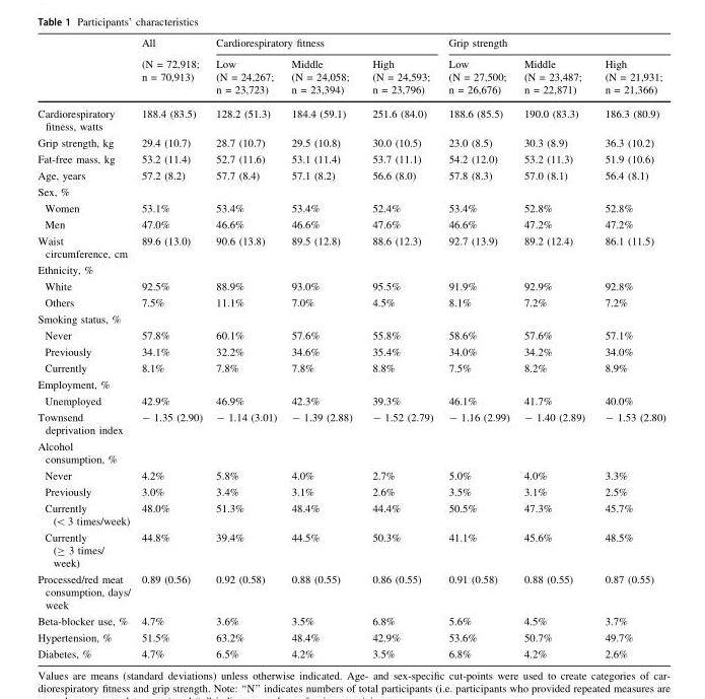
<table><thead><tr><td rowspan="2"></td><td rowspan="2">All (N = 72,918; n = 70,913)</td><td colspan="3">Cardiorespiratory fitness</td><td colspan="3">Grip strength</td></tr><tr><td>Low (N = 24,267; n = 23,723)</td><td>Middle (N = 24,058; n = 23,394)</td><td>High (N = 24,593; n = 23,796)</td><td>Low (N = 27,500; n = 26,676)</td><td>Middle (N = 23,487; n = 22,871)</td><td>High (N = 21,931; n = 21,366)</td></tr></thead><tbody><tr><td>Cardiorespiratory fitness, watts</td><td>188.4 (83.5)</td><td>128.2 (51.3)</td><td>184.4 (59.1)</td><td>251.6 (84.0)</td><td>188.6 (85.5)</td><td>190.0 (83.3)</td><td>186.3 (80.9)</td></tr><tr><td>Grip strength, kg</td><td>29.4 (10.7)</td><td>28.7 (10.7)</td><td>29.5 (10.8)</td><td>30.0 (10.5)</td><td>23.0 (8.5)</td><td>30.3 (8.9)</td><td>36.3 (10.2)</td></tr><tr><td>Fat-free mass, kg</td><td>53.2 (11.4)</td><td>52.7 (11.6)</td><td>53.1 (11.4)</td><td>53.7 (11.1)</td><td>54.2 (12.0)</td><td>53.2 (11.3)</td><td>51.9 (10.6)</td></tr><tr><td>Age, years</td><td>57.2 (8.2)</td><td>57.7 (8.4)</td><td>57.1 (8.2)</td><td>56.6 (8.0)</td><td>57.8 (8.3)</td><td>57.0 (8.1)</td><td>56.4 (8.1)</td></tr><tr><td colspan="8">Sex, %</td></tr><tr><td>Women</td><td>53.1%</td><td>53.4%</td><td>53.4%</td><td>52.4%</td><td>53.4%</td><td>52.8%</td><td>52.8%</td></tr><tr><td>Men</td><td>47.0%</td><td>46.6%</td><td>46.6%</td><td>47.6%</td><td>46.6%</td><td>47.2%</td><td>47.2%</td></tr><tr><td>Waist circumference, cm</td><td>89.6 (13.0)</td><td>90.6 (13.8)</td><td>89.5 (12.8)</td><td>88.6 (12.3)</td><td>92.7 (13.9)</td><td>89.2 (12.4)</td><td>86.1 (11.5)</td></tr><tr><td colspan="8">Ethnicity, %</td></tr><tr><td>White</td><td>92.5%</td><td>88.9%</td><td>93.0%</td><td>95.5%</td><td>91.9%</td><td>92.9%</td><td>92.8%</td></tr><tr><td>Others</td><td>7.5%</td><td>11.1%</td><td>7.0%</td><td>4.5%</td><td>8.1%</td><td>7.2%</td><td>7.2%</td></tr><tr><td colspan="8">Smoking status, %</td></tr><tr><td>Never</td><td>57.8%</td><td>60.1%</td><td>57.6%</td><td>55.8%</td><td>58.6%</td><td>57.6%</td><td>57.1%</td></tr><tr><td>Previously</td><td>34.1%</td><td>32.2%</td><td>34.6%</td><td>35.4%</td><td>34.0%</td><td>34.2%</td><td>34.0%</td></tr><tr><td>Currently</td><td>8.1%</td><td>7.8%</td><td>7.8%</td><td>8.8%</td><td>7.5%</td><td>8.2%</td><td>8.9%</td></tr><tr><td colspan="8">Employment, %</td></tr><tr><td>Unemployed</td><td>42.9%</td><td>46.9%</td><td>42.3%</td><td>39.3%</td><td>46.1%</td><td>41.7%</td><td>40.0%</td></tr><tr><td>Townsend deprivation index</td><td>- 1.35 (2.90)</td><td>- 1.14 (3.01)</td><td>- 1.39 (2.88)</td><td>- 1.52 (2.79)</td><td>- 1.16 (2.99)</td><td>- 1.40 (2.89)</td><td>- 1.53 (2.80)</td></tr><tr><td colspan="8">Alcohol consumption, %</td></tr><tr><td>Never</td><td>4.2%</td><td>5.8%</td><td>4.0%</td><td>2.7%</td><td>5.0%</td><td>4.0%</td><td>3.3%</td></tr><tr><td>Previously</td><td>3.0%</td><td>3.4%</td><td>3.1%</td><td>2.6%</td><td>3.5%</td><td>3.1%</td><td>2.5%</td></tr><tr><td>Currently (&lt; 3 times/week)</td><td>48.0%</td><td>51.3%</td><td>48.4%</td><td>44.4%</td><td>50.5%</td><td>47.3%</td><td>45.7%</td></tr><tr><td>Currently (≥ 3 times/ week)</td><td>44.8%</td><td>39.4%</td><td>44.5%</td><td>50.3%</td><td>41.1%</td><td>45.6%</td><td>48.5%</td></tr><tr><td>Processed/red meat consumption, days/ week</td><td>0.89 (0.56)</td><td>0.92 (0.58)</td><td>0.88 (0.55)</td><td>0.86 (0.55)</td><td>0.91 (0.58)</td><td>0.88 (0.55)</td><td>0.87 (0.55)</td></tr><tr><td>Beta-blocker use, %</td><td>4.7%</td><td>3.6%</td><td>3.5%</td><td>6.8%</td><td>5.6%</td><td>4.5%</td><td>3.7%</td></tr><tr><td>Hypertension, %</td><td>51.5%</td><td>63.2%</td><td>48.4%</td><td>42.9%</td><td>53.6%</td><td>50.7%</td><td>49.7%</td></tr><tr><td>Diabetes, %</td><td>4.7%</td><td>6.5%</td><td>4.2%</td><td>3.5%</td><td>6.8%</td><td>4.2%</td><td>2.6%</td></tr></tbody></table>